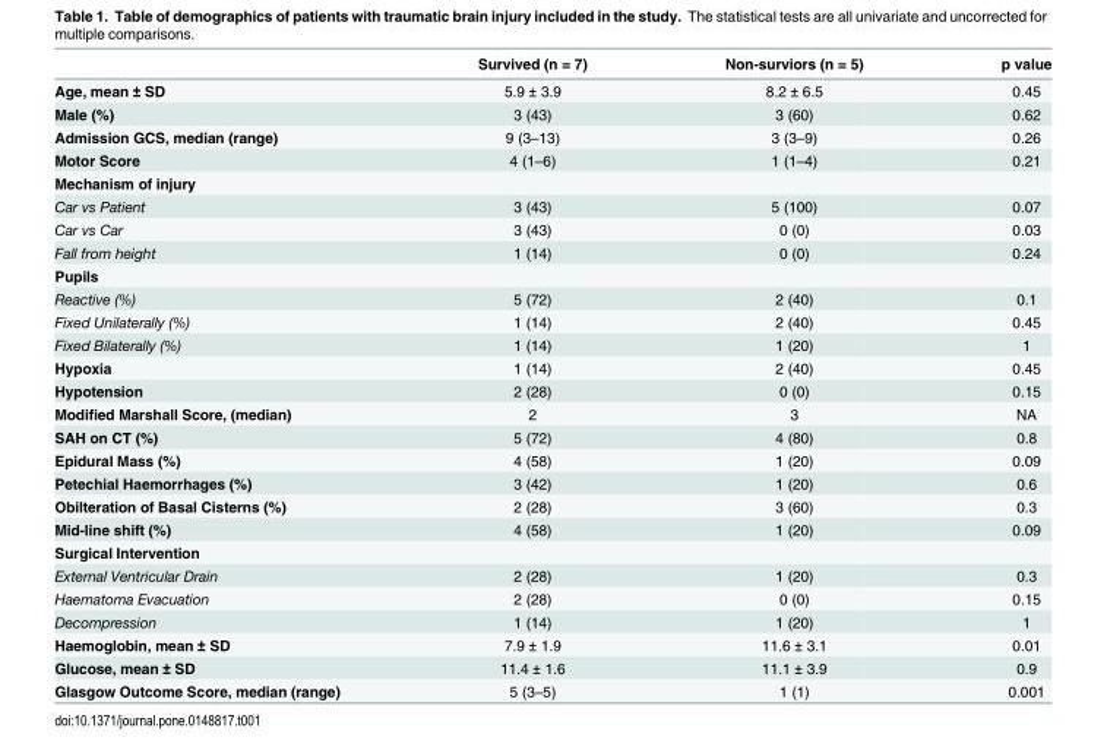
<table><thead><tr><td></td><td>Survived (n = 7)</td><td>Non-surviors (n = 5)</td><td>p value</td></tr></thead><tbody><tr><td>Age, mean ± SD</td><td>5.9 ± 3.9</td><td>8.2 ± 6.5</td><td>0.45</td></tr><tr><td>Male (%)</td><td>3 (43)</td><td>3 (60)</td><td>0.62</td></tr><tr><td>Admission GCS, median (range)</td><td>9 (3–13)</td><td>3 (3–9)</td><td>0.26</td></tr><tr><td>Motor Score</td><td>4 (1–6)</td><td>1 (1–4)</td><td>0.21</td></tr><tr><td colspan="4">Mechanism of injury</td></tr><tr><td>Car vs Patient</td><td>3 (43)</td><td>5 (100)</td><td>0.07</td></tr><tr><td>Car vs Car</td><td>3 (43)</td><td>0 (0)</td><td>0.03</td></tr><tr><td>Fall from height</td><td>1 (14)</td><td>0 (0)</td><td>0.24</td></tr><tr><td colspan="4">Pupils</td></tr><tr><td>Reactive (%)</td><td>5 (72)</td><td>2 (40)</td><td>0.1</td></tr><tr><td>Fixed Unilaterally (%)</td><td>1 (14)</td><td>2 (40)</td><td>0.45</td></tr><tr><td>Fixed Bilaterally (%)</td><td>1 (14)</td><td>1 (20)</td><td>1</td></tr><tr><td>Hypoxia</td><td>1 (14)</td><td>2 (40)</td><td>0.45</td></tr><tr><td>Hypotension</td><td>2 (28)</td><td>0 (0)</td><td>0.15</td></tr><tr><td>Modified Marshall Score, (median)</td><td>2</td><td>3</td><td>NA</td></tr><tr><td>SAH on CT (%)</td><td>5 (72)</td><td>4 (80)</td><td>0.8</td></tr><tr><td>Epidural Mass (%)</td><td>4 (58)</td><td>1 (20)</td><td>0.09</td></tr><tr><td>Petechial Haemorrhages (%)</td><td>3 (42)</td><td>1 (20)</td><td>0.6</td></tr><tr><td>Obilteration of Basal Cisterns (%)</td><td>2 (28)</td><td>3 (60)</td><td>0.3</td></tr><tr><td>Mid-line shift (%)</td><td>4 (58)</td><td>1 (20)</td><td>0.09</td></tr><tr><td colspan="4">Surgical Intervention</td></tr><tr><td>External Ventricular Drain</td><td>2 (28)</td><td>1 (20)</td><td>0.3</td></tr><tr><td>Haematoma Evacuation</td><td>2 (28)</td><td>0 (0)</td><td>0.15</td></tr><tr><td>Decompression</td><td>1 (14)</td><td>1 (20)</td><td>1</td></tr><tr><td>Haemoglobin, mean ± SD</td><td>7.9 ± 1.9</td><td>11.6 ± 3.1</td><td>0.01</td></tr><tr><td>Glucose, mean ± SD</td><td>11.4 ± 1.6</td><td>11.1 ± 3.9</td><td>0.9</td></tr><tr><td>Glasgow Outcome Score, median (range)</td><td>5 (3–5)</td><td>1 (1)</td><td>0.001</td></tr></tbody></table>